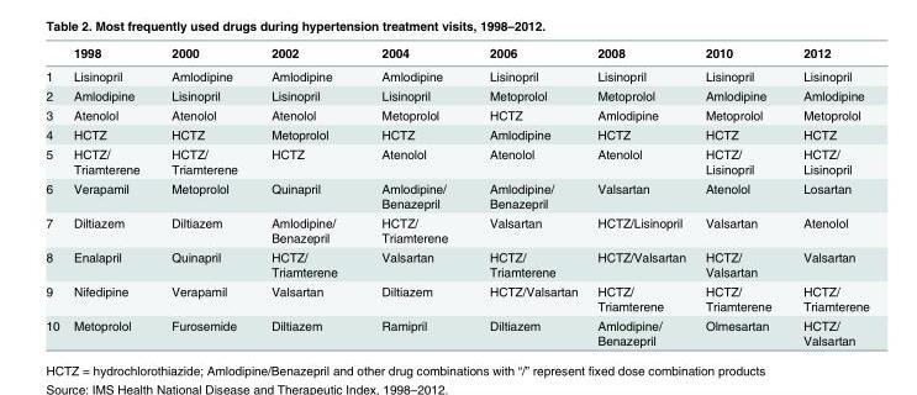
<table><thead><tr><td></td><td>1998</td><td>2000</td><td>2002</td><td>2004</td><td>2006</td><td>2008</td><td>2010</td><td>2012</td></tr></thead><tbody><tr><td>1</td><td>Lisinopril</td><td>Amlodipine</td><td>Amlodipine</td><td>Amlodipine</td><td>Lisinopril</td><td>Lisinopril</td><td>Lisinopril</td><td>Lisinopril</td></tr><tr><td>2</td><td>Amlodipine</td><td>Lisinopril</td><td>Lisinopril</td><td>Lisinopril</td><td>Metoprolol</td><td>Metoprolol</td><td>Amlodipine</td><td>Amlodipine</td></tr><tr><td>3</td><td>Atenolol</td><td>Atenolol</td><td>Atenolol</td><td>Metoprolol</td><td>HCTZ</td><td>Amlodipine</td><td>Metoprolol</td><td>Metoprolol</td></tr><tr><td>4</td><td>HCTZ</td><td>HCTZ</td><td>Metoprolol</td><td>HCTZ</td><td>Amlodipine</td><td>HCTZ</td><td>HCTZ</td><td>HCTZ</td></tr><tr><td>5</td><td>HCTZ/ Triamterene</td><td>HCTZ/ Triamterene</td><td>HCTZ</td><td>Atenolol</td><td>Atenolol</td><td>Atenolol</td><td>HCTZ/ Lisinopril</td><td>HCTZ/ Lisinopril</td></tr><tr><td>6</td><td>Verapamil</td><td>Metoprolol</td><td>Quinapril</td><td>Amlodipine/ Benazepril</td><td>Amlodipine/ Benazepril</td><td>Valsartan</td><td>Atenolol</td><td>Losartan</td></tr><tr><td>7</td><td>Diltiazem</td><td>Diltiazem</td><td>Amlodipine/ Benazepril</td><td>HCTZ/ Triamterene</td><td>Valsartan</td><td>HCTZ/Lisinopril</td><td>Valsartan</td><td>Atenolol</td></tr><tr><td>8</td><td>Enalapril</td><td>Quinapril</td><td>HCTZ/ Triamterene</td><td>Valsartan</td><td>HCTZ/ Triamterene</td><td>HCTZ/Valsartan</td><td>HCTZ/ Valsartan</td><td>Valsartan</td></tr><tr><td>9</td><td>Nifedipine</td><td>Verapamil</td><td>Valsartan</td><td>Diltiazem</td><td>HCTZ/Valsartan</td><td>HCTZ/ Triamterene</td><td>HCTZ/ Triamterene</td><td>HCTZ/ Triamterene</td></tr><tr><td>10</td><td>Metoprolol</td><td>Furosemide</td><td>Diltiazem</td><td>Ramipril</td><td>Diltiazem</td><td>Amlodipine/ Benazepril</td><td>Olmesartan</td><td>HCTZ/ Valsartan</td></tr></tbody></table>